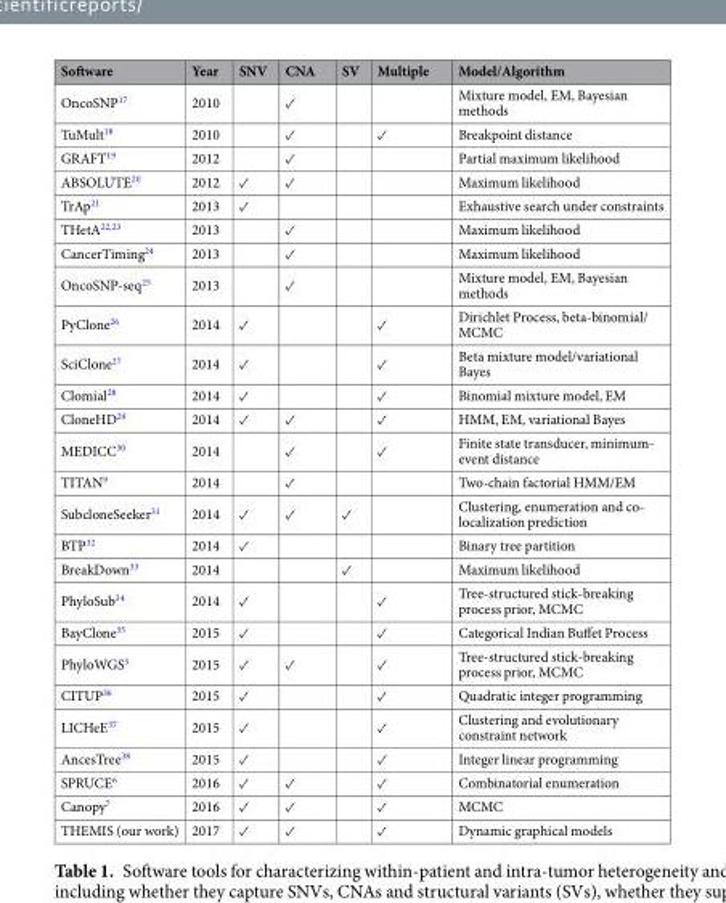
<table><thead><tr><td>Software</td><td>Year</td><td>SNV</td><td>CNA</td><td>SV</td><td>Multiple</td><td>Model/Algorithm</td></tr></thead><tbody><tr><td>OncoSNP<sup>17</sup></td><td>2010</td><td></td><td>✓</td><td></td><td></td><td>Mixture model, EM, Bayesian methods</td></tr><tr><td>TuMult<sup>18</sup></td><td>2010</td><td></td><td>✓</td><td></td><td>✓</td><td>Breakpoint distance</td></tr><tr><td>GRAFT<sup>19</sup></td><td>2012</td><td></td><td>✓</td><td></td><td></td><td>Partial maximum likelihood</td></tr><tr><td>ABSOLUTE<sup>20</sup></td><td>2012</td><td>✓</td><td>✓</td><td></td><td></td><td>Maximum likelihood</td></tr><tr><td>TrAp<sup>21</sup></td><td>2013</td><td>✓</td><td></td><td></td><td></td><td>Exhaustive search under constraints</td></tr><tr><td>THetA<sup>22,23</sup></td><td>2013</td><td></td><td>✓</td><td></td><td></td><td>Maximum likelihood</td></tr><tr><td>CancerTiming<sup>24</sup></td><td>2013</td><td></td><td>✓</td><td></td><td></td><td>Maximum likelihood</td></tr><tr><td>OncoSNP-seq<sup>25</sup></td><td>2013</td><td></td><td>✓</td><td></td><td></td><td>Mixture model, EM, Bayesian methods</td></tr><tr><td>PyClone<sup>26</sup></td><td>2014</td><td>✓</td><td></td><td></td><td>✓</td><td>Dirichlet Process, beta-binomial/ MCMC</td></tr><tr><td>SciClone<sup>27</sup></td><td>2014</td><td>✓</td><td></td><td></td><td>✓</td><td>Beta mixture model/variational Bayes</td></tr><tr><td>Clomial<sup>28</sup></td><td>2014</td><td>✓</td><td></td><td></td><td>✓</td><td>Binomial mixture model, EM</td></tr><tr><td>CloneHD<sup>29</sup></td><td>2014</td><td>✓</td><td>✓</td><td></td><td>✓</td><td>HMM, EM, variational Bayes</td></tr><tr><td>MEDICC<sup>30</sup></td><td>2014</td><td></td><td>✓</td><td></td><td>✓</td><td>Finite state transducer, minimum- event distance</td></tr><tr><td>TITAN<sup>9</sup></td><td>2014</td><td></td><td>✓</td><td></td><td></td><td>Two-chain factorial HMM/EM</td></tr><tr><td>SubcloneSeeker<sup>31</sup></td><td>2014</td><td>✓</td><td>✓</td><td>✓</td><td></td><td>Clustering, enumeration and co- localization prediction</td></tr><tr><td>BTP<sup>32</sup></td><td>2014</td><td>✓</td><td></td><td></td><td></td><td>Binary tree partition</td></tr><tr><td>BreakDown<sup>33</sup></td><td>2014</td><td></td><td></td><td>✓</td><td></td><td>Maximum likelihood</td></tr><tr><td>PhyloSub<sup>34</sup></td><td>2014</td><td>✓</td><td></td><td></td><td>✓</td><td>Tree-structured stick-breaking process prior, MCMC</td></tr><tr><td>BayClone<sup>35</sup></td><td>2015</td><td>✓</td><td></td><td></td><td>✓</td><td>Categorical Indian Buffet Process</td></tr><tr><td>PhyloWGS<sup>5</sup></td><td>2015</td><td>✓</td><td>✓</td><td></td><td>✓</td><td>Tree-structured stick-breaking process prior, MCMC</td></tr><tr><td>CITUP<sup>36</sup></td><td>2015</td><td>✓</td><td></td><td></td><td>✓</td><td>Quadratic integer programming</td></tr><tr><td>LICHeE<sup>37</sup></td><td>2015</td><td>✓</td><td></td><td></td><td>✓</td><td>Clustering and evolutionary constraint network</td></tr><tr><td>AncesTree<sup>38</sup></td><td>2015</td><td>✓</td><td></td><td></td><td>✓</td><td>Integer linear programming</td></tr><tr><td>SPRUCE<sup>6</sup></td><td>2016</td><td>✓</td><td>✓</td><td></td><td>✓</td><td>Combinatorial enumeration</td></tr><tr><td>Canopy<sup>7</sup></td><td>2016</td><td>✓</td><td>✓</td><td></td><td>✓</td><td>MCMC</td></tr><tr><td>THEMIS (our work)</td><td>2017</td><td>✓</td><td>✓</td><td></td><td>✓</td><td>Dynamic graphical models</td></tr></tbody></table>